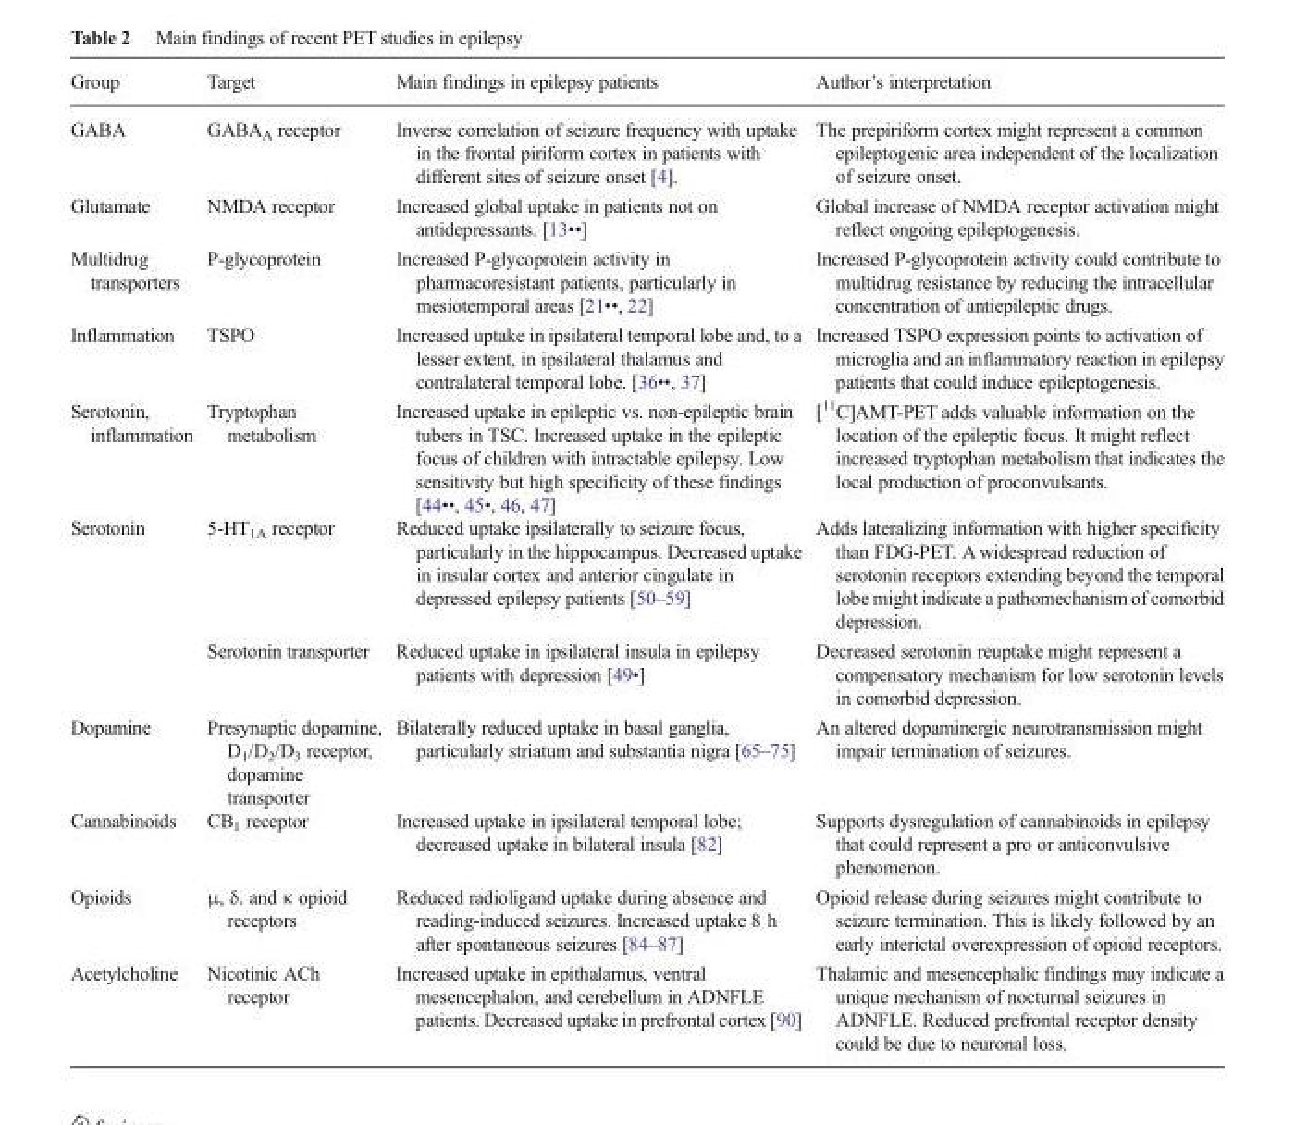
<table><thead><tr><td>Group</td><td>Target</td><td>Main findings in epilepsy patients</td><td>Author’s interpretation</td></tr></thead><tbody><tr><td>GABA</td><td>GABA<sub>A</sub> receptor</td><td>Inverse correlation of seizure frequency with uptake in the frontal piriform cortex in patients with different sites of seizure onset [4].</td><td>The prepiriform cortex might represent a common epileptogenic area independent of the localization of seizure onset.</td></tr><tr><td>Glutamate</td><td>NMDA receptor</td><td>Increased global uptake in patients not on antidepressants. [13••]</td><td>Global increase of NMDA receptor activation might reflect ongoing epileptogenesis.</td></tr><tr><td>Multidrug transporters</td><td>P-glycoprotein</td><td>Increased P-glycoprotein activity in pharmacoresistant patients, particularly in mesiotemporal areas [21••, 22]</td><td>Increased P-glycoprotein activity could contribute to multidrug resistance by reducing the intracellular concentration of antiepileptic drugs.</td></tr><tr><td>Inflammation</td><td>TSPO</td><td>Increased uptake in ipsilateral temporal lobe and, to a lesser extent, in ipsilateral thalamus and contralateral temporal lobe. [36••, 37]</td><td>Increased TSPO expression points to activation of microglia and an inflammatory reaction in epilepsy patients that could induce epileptogenesis.</td></tr><tr><td>Serotonin, inflammation</td><td>Tryptophan metabolism</td><td>Increased uptake in epileptic vs. non-epileptic brain tubers in TSC. Increased uptake in the epileptic focus of children with intractable epilepsy. Low sensitivity but high specificity of these findings [44••, 45•, 46, 47]</td><td>[<sup>11</sup>C]AMT-PET adds valuable information on the location of the epileptic focus. It might reflect increased tryptophan metabolism that indicates the local production of proconvulsants.</td></tr><tr><td rowspan="2">Serotonin</td><td>5-HT<sub>1A</sub> receptor</td><td>Reduced uptake ipsilaterally to seizure focus, particularly in the hippocampus. Decreased uptake in insular cortex and anterior cingulate in depressed epilepsy patients [50–59]</td><td>Adds lateralizing information with higher specificity than FDG-PET. A widespread reduction of serotonin receptors extending beyond the temporal lobe might indicate a pathomechanism of comorbid depression.</td></tr><tr><td>Serotonin transporter</td><td>Reduced uptake in ipsilateral insula in epilepsy patients with depression [49•]</td><td>Decreased serotonin reuptake might represent a compensatory mechanism for low serotonin levels in comorbid depression.</td></tr><tr><td>Dopamine</td><td>Presynaptic dopamine, D<sub>1</sub>/D<sub>2</sub>/D<sub>3</sub> receptor, dopamine transporter</td><td>Bilaterally reduced uptake in basal ganglia, particularly striatum and substantia nigra [65–75]</td><td>An altered dopaminergic neurotransmission might impair termination of seizures.</td></tr><tr><td>Cannabinoids</td><td>CB<sub>1</sub> receptor</td><td>Increased uptake in ipsilateral temporal lobe; decreased uptake in bilateral insula [82]</td><td>Supports dysregulation of cannabinoids in epilepsy that could represent a pro or anticonvulsive phenomenon.</td></tr><tr><td>Opioids</td><td>μ, δ. and κ opioid receptors</td><td>Reduced radioligand uptake during absence and reading-induced seizures. Increased uptake 8 h after spontaneous seizures [84–87]</td><td>Opioid release during seizures might contribute to seizure termination. This is likely followed by an early interictal overexpression of opioid receptors.</td></tr><tr><td>Acetylcholine</td><td>Nicotinic ACh receptor</td><td>Increased uptake in epithalamus, ventral mesencephalon, and cerebellum in ADNFLE patients. Decreased uptake in prefrontal cortex [90]</td><td>Thalamic and mesencephalic findings may indicate a unique mechanism of nocturnal seizures in ADNFLE. Reduced prefrontal receptor density could be due to neuronal loss.</td></tr></tbody></table>